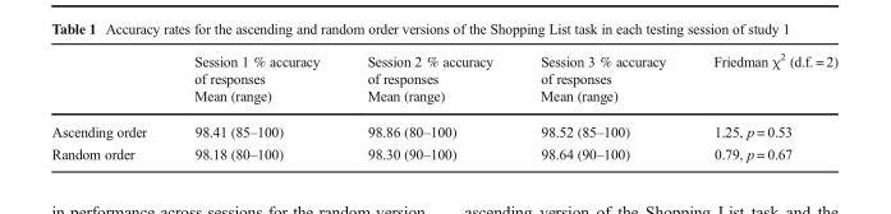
<table><thead><tr><td rowspan="2"></td><td rowspan="2">Session 1 % accuracy of responses Mean (range)</td><td rowspan="2">Session 2 % accuracy of responses Mean (range)</td><td rowspan="2">Session 3 % accuracy of responses Mean (range)</td><td rowspan="2">Friedman χ<sup>2</sup> (d.f. = 2)</td></tr><tr></tr></thead><tbody><tr><td>Ascending order</td><td>98.41 (85–100)</td><td>98.86 (80–100)</td><td>98.52 (85–100)</td><td>1.25, p = 0.53</td></tr><tr><td>Random order</td><td>98.18 (80–100)</td><td>98.30 (90–100)</td><td>98.64 (90–100)</td><td>0.79, p = 0.67</td></tr></tbody></table>